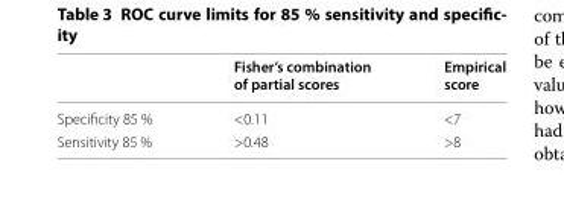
<table><thead><tr><td></td><td>Fisher’s combination of partial scores</td><td>Empirical score</td></tr></thead><tbody><tr><td>Specificity 85 %</td><td>&lt;0.11</td><td>&lt;7</td></tr><tr><td>Sensitivity 85 %</td><td>&gt;0.48</td><td>&gt;8</td></tr></tbody></table>